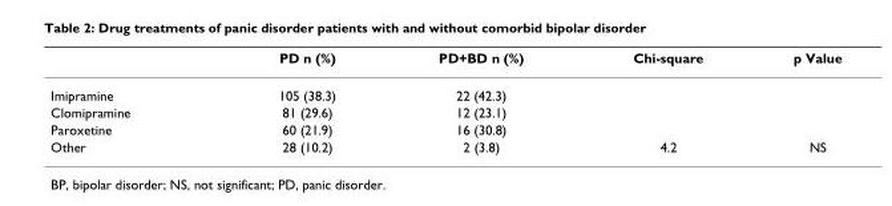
<table><thead><tr><td></td><td>PD n (%)</td><td>PD+BD n (%)</td><td>Chi-square</td><td>p Value</td></tr></thead><tbody><tr><td>Imipramine</td><td>105 (38.3)</td><td>22 (42.3)</td><td></td><td></td></tr><tr><td>Clomipramine</td><td>81 (29.6)</td><td>12 (23.1)</td><td></td><td></td></tr><tr><td>Paroxetine</td><td>60 (21.9)</td><td>16 (30.8)</td><td></td><td></td></tr><tr><td>Other</td><td>28 (10.2)</td><td>2 (3.8)</td><td>4.2</td><td>NS</td></tr></tbody></table>